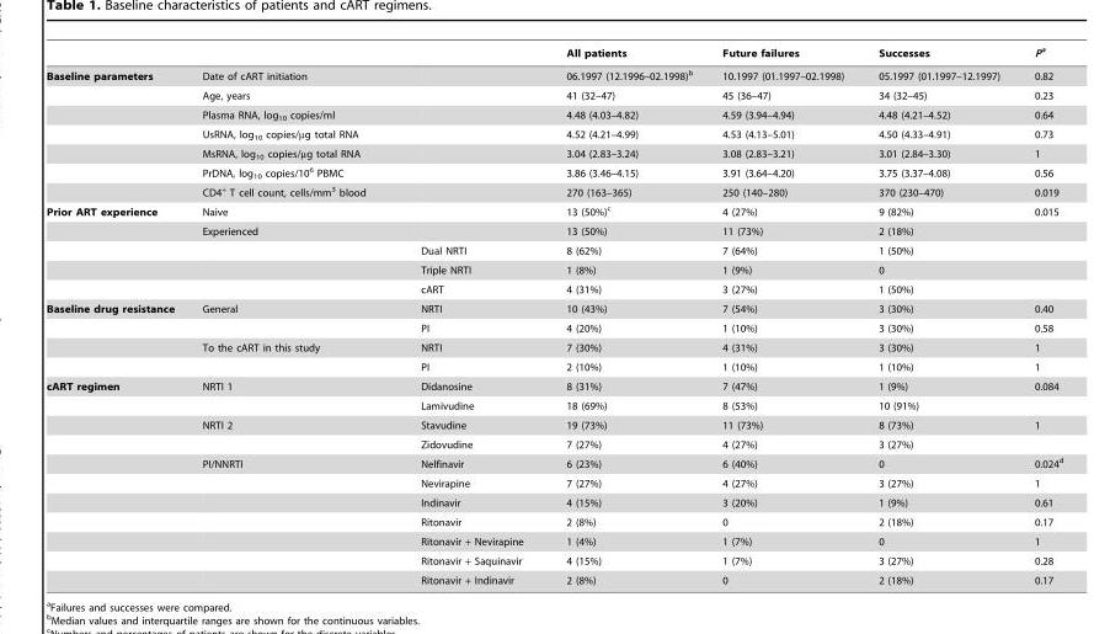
<table><thead><tr><td></td><td></td><td></td><td>All patients</td><td>Future failures</td><td>Successes</td><td>Pa</td></tr></thead><tbody><tr><td rowspan="7">Baseline parameters</td><td>Date of cART initiation</td><td></td><td>06.1997 (12.1996–02.1998)<sup>b</sup></td><td>10.1997 (01.1997–02.1998)</td><td>05.1997 (01.1997–12.1997)</td><td>0.82</td></tr><tr><td>Age, years</td><td></td><td>41 (32–47)</td><td>45 (36–47)</td><td>34 (32–45)</td><td>0.23</td></tr><tr><td>Plasma RNA, log<sub>10</sub> copies/ml</td><td></td><td>4.48 (4.03–4.82)</td><td>4.59 (3.94–4.94)</td><td>4.48 (4.21–4.52)</td><td>0.64</td></tr><tr><td>UsRNA, log<sub>10</sub> copies/µg total RNA</td><td></td><td>4.52 (4.21–4.99)</td><td>4.53 (4.13–5.01)</td><td>4.50 (4.33–4.91)</td><td>0.73</td></tr><tr><td>MsRNA, log<sub>10</sub> copies/µg total RNA</td><td></td><td>3.04 (2.83–3.24)</td><td>3.08 (2.83–3.21)</td><td>3.01 (2.84–3.30)</td><td>1</td></tr><tr><td>PrDNA, log<sub>10</sub> copies/10<sup>6</sup> PBMC</td><td></td><td>3.86 (3.46–4.15)</td><td>3.91 (3.64–4.20)</td><td>3.75 (3.37–4.08)</td><td>0.56</td></tr><tr><td>CD4<sup>+</sup> T cell count, cells/mm<sup>3</sup> blood</td><td></td><td>270 (163–365)</td><td>250 (140–280)</td><td>370 (230–470)</td><td>0.019</td></tr><tr><td rowspan="5">Prior ART experience</td><td>Naive</td><td></td><td>13 (50%)<sup>c</sup></td><td>4 (27%)</td><td>9 (82%)</td><td>0.015</td></tr><tr><td>Experienced</td><td></td><td>13 (50%)</td><td>11 (73%)</td><td>2 (18%)</td><td></td></tr><tr><td></td><td>Dual NRTI</td><td>8 (62%)</td><td>7 (64%)</td><td>1 (50%)</td><td></td></tr><tr><td></td><td>Triple NRTI</td><td>1 (8%)</td><td>1 (9%)</td><td>0</td><td></td></tr><tr><td></td><td>cART</td><td>4 (31%)</td><td>3 (27%)</td><td>1 (50%)</td><td></td></tr><tr><td rowspan="4">Baseline drug resistance</td><td>General</td><td>NRTI</td><td>10 (43%)</td><td>7 (54%)</td><td>3 (30%)</td><td>0.40</td></tr><tr><td></td><td>PI</td><td>4 (20%)</td><td>1 (10%)</td><td>3 (30%)</td><td>0.58</td></tr><tr><td>To the cART in this study</td><td>NRTI</td><td>7 (30%)</td><td>4 (31%)</td><td>3 (30%)</td><td>1</td></tr><tr><td></td><td>PI</td><td>2 (10%)</td><td>1 (10%)</td><td>1 (10%)</td><td>1</td></tr><tr><td rowspan="11">cART regimen</td><td>NRTI 1</td><td>Didanosine</td><td>8 (31%)</td><td>7 (47%)</td><td>1 (9%)</td><td>0.084</td></tr><tr><td></td><td>Lamivudine</td><td>18 (69%)</td><td>8 (53%)</td><td>10 (91%)</td><td></td></tr><tr><td>NRTI 2</td><td>Stavudine</td><td>19 (73%)</td><td>11 (73%)</td><td>8 (73%)</td><td>1</td></tr><tr><td></td><td>Zidovudine</td><td>7 (27%)</td><td>4 (27%)</td><td>3 (27%)</td><td></td></tr><tr><td>PI/NNRTI</td><td>Nelfinavir</td><td>6 (23%)</td><td>6 (40%)</td><td>0</td><td>0.024<sup>d</sup></td></tr><tr><td></td><td>Nevirapine</td><td>7 (27%)</td><td>4 (27%)</td><td>3 (27%)</td><td>1</td></tr><tr><td></td><td>Indinavir</td><td>4 (15%)</td><td>3 (20%)</td><td>1 (9%)</td><td>0.61</td></tr><tr><td></td><td>Ritonavir</td><td>2 (8%)</td><td>0</td><td>2 (18%)</td><td>0.17</td></tr><tr><td></td><td>Ritonavir + Nevirapine</td><td>1 (4%)</td><td>1 (7%)</td><td>0</td><td>1</td></tr><tr><td></td><td>Ritonavir + Saquinavir</td><td>4 (15%)</td><td>1 (7%)</td><td>3 (27%)</td><td>0.28</td></tr><tr><td></td><td>Ritonavir + Indinavir</td><td>2 (8%)</td><td>0</td><td>2 (18%)</td><td>0.17</td></tr></tbody></table>